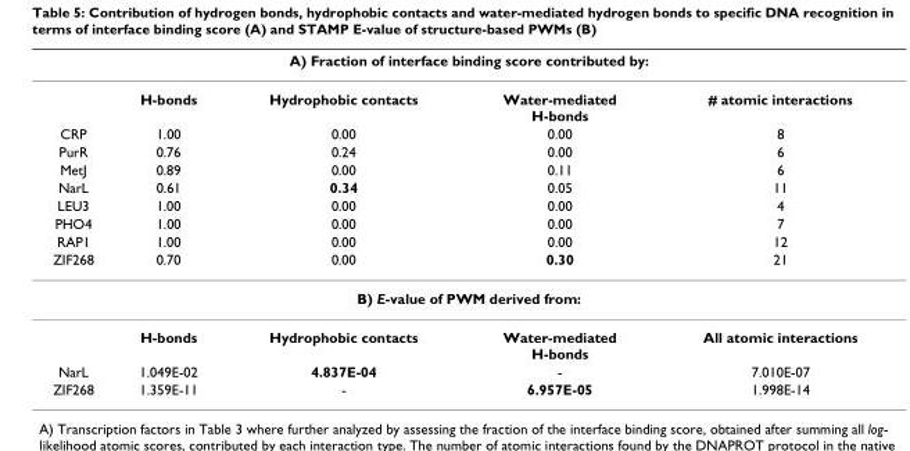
<table><thead><tr><td colspan="5">A) Fraction of interface binding score contributed by:</td></tr><tr><td></td><td>H-bonds</td><td>Hydrophobic contacts</td><td>Water-mediated H-bonds</td><td># atomic interactions</td></tr></thead><tbody><tr><td>CRP</td><td>1.00</td><td>0.00</td><td>0.00</td><td>8</td></tr><tr><td>PurR</td><td>0.76</td><td>0.24</td><td>0.00</td><td>6</td></tr><tr><td>MetJ</td><td>0.89</td><td>0.00</td><td>0.11</td><td>6</td></tr><tr><td>NarL</td><td>0.61</td><td>0.34</td><td>0.05</td><td>11</td></tr><tr><td>LEU3</td><td>1.00</td><td>0.00</td><td>0.00</td><td>4</td></tr><tr><td>PHO4</td><td>1.00</td><td>0.00</td><td>0.00</td><td>7</td></tr><tr><td>RAP1</td><td>1.00</td><td>0.00</td><td>0.00</td><td>12</td></tr><tr><td>ZIF268</td><td>0.70</td><td>0.00</td><td>0.30</td><td>21</td></tr><tr><td colspan="5">B) E-value of PWM derived from:</td></tr><tr><td></td><td>H-bonds</td><td>Hydrophobic contacts</td><td>Water-mediated H-bonds</td><td>All atomic interactions</td></tr><tr><td>NarL</td><td>1.049E-02</td><td>4.837E-04</td><td>-</td><td>7.010E-07</td></tr><tr><td>ZIF268</td><td>1.359E-11</td><td>-</td><td>6.957E-05</td><td>1.998E-14</td></tr></tbody></table>